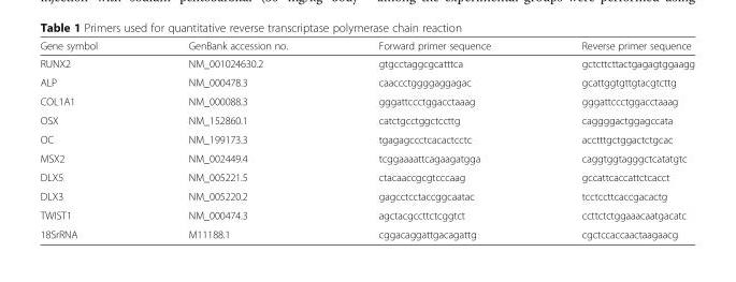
<table><thead><tr><td>Gene symbol</td><td>GenBank accession no.</td><td>Forward primer sequence</td><td>Reverse primer sequence</td></tr></thead><tbody><tr><td>RUNX2</td><td>NM_001024630.2</td><td>gtgcctaggcgcatttca</td><td>gctcttcttactgagagtggaagg</td></tr><tr><td>ALP</td><td>NM_000478.3</td><td>caaccctggggaggagac</td><td>gcattggtgttgtacgtcttg</td></tr><tr><td>COL1A1</td><td>NM_000088.3</td><td>gggattccctggacctaaag</td><td>gggattccctggacctaaag</td></tr><tr><td>OSX</td><td>NM_152860.1</td><td>catctgcctggctccttg</td><td>caggggactggagccata</td></tr><tr><td>OC</td><td>NM_199173.3</td><td>tgagagccctcacactcctc</td><td>acctttgctggactctgcac</td></tr><tr><td>MSX2</td><td>NM_002449.4</td><td>tcggaaaattcagaagatgga</td><td>caggtggtagggctcatatgtc</td></tr><tr><td>DLX5</td><td>NM_005221.5</td><td>ctacaaccgcgtcccaag</td><td>gccattcaccattctcacct</td></tr><tr><td>DLX3</td><td>NM_005220.2</td><td>gagcctcctaccggcaatac</td><td>tcctccttcaccgacactg</td></tr><tr><td>TWIST1</td><td>NM_000474.3</td><td>agctacgccttctcggtct</td><td>ccttctctggaaacaatgacatc</td></tr><tr><td>18SrRNA</td><td>M11188.1</td><td>cggacaggattgacagattg</td><td>cgctccaccaactaagaacg</td></tr></tbody></table>